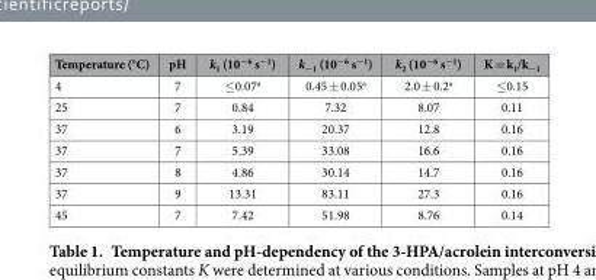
<table><thead><tr><td>Temperature (°C)</td><td>pH</td><td>k<sub>1</sub> (10<sup>−6</sup> s<sup>−</sup>1)</td><td>k<sub>−1</sub> (10<sup>−6</sup> s<sup>−</sup>1)</td><td>k<sub>2</sub> (10<sup>−6</sup> s<sup>−</sup>1)</td><td>K = k<sub>1</sub>/k<sub>−1</sub></td></tr></thead><tbody><tr><td>4</td><td>7</td><td>≤ 0.07<sup>a</sup></td><td>0.45 ± 0.05<sup>a</sup></td><td>2.0 ± 0.2<sup>a</sup></td><td>≤ 0.15</td></tr><tr><td>25</td><td>7</td><td>0.84</td><td>7.32</td><td>8.07</td><td>0.11</td></tr><tr><td>37</td><td>6</td><td>3.19</td><td>20.37</td><td>12.8</td><td>0.16</td></tr><tr><td>37</td><td>7</td><td>5.39</td><td>33.08</td><td>16.6</td><td>0.16</td></tr><tr><td>37</td><td>8</td><td>4.86</td><td>30.14</td><td>14.7</td><td>0.16</td></tr><tr><td>37</td><td>9</td><td>13.31</td><td>83.11</td><td>27.3</td><td>0.16</td></tr><tr><td>45</td><td>7</td><td>7.42</td><td>51.98</td><td>8.76</td><td>0.14</td></tr></tbody></table>